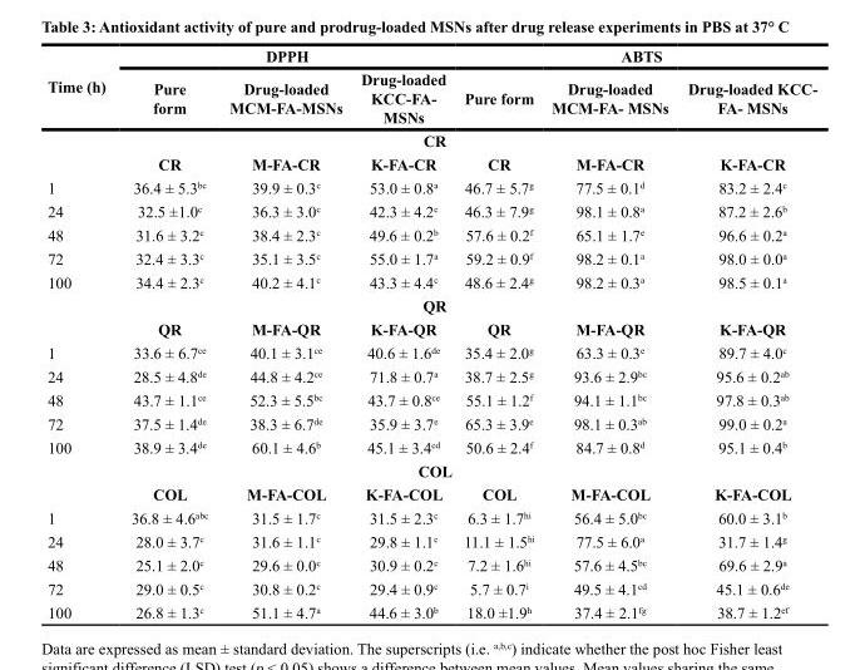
<table><thead><tr><td rowspan="2">Time (h)</td><td colspan="3">DPPH</td><td colspan="3">ABTS</td></tr><tr><td>Pure form</td><td>Drug-loaded MCM-FA-MSNs</td><td>Drug-loaded KCC-FA- MSNs</td><td>Pure form</td><td>Drug-loaded MCM-FA- MSNs</td><td>Drug-loaded KCC- FA- MSNs</td></tr></thead><tbody><tr><td colspan="7">CR</td></tr><tr><td></td><td>CR</td><td>M-FA-CR</td><td>K-FA-CR</td><td>CR</td><td>M-FA-CR</td><td>K-FA-CR</td></tr><tr><td>1</td><td>36.4 ± 5.3<sup>bc</sup></td><td>39.9 ± 0.3<sup>c</sup></td><td>53.0 ± 0.8<sup>a</sup></td><td>46.7 ± 5.7<sup>g</sup></td><td>77.5 ± 0.1<sup>d</sup></td><td>83.2 ± 2.4<sup>c</sup></td></tr><tr><td>24</td><td>32.5 ±1.0<sup>c</sup></td><td>36.3 ± 3.0<sup>c</sup></td><td>42.3 ± 4.2<sup>c</sup></td><td>46.3 ± 7.9<sup>g</sup></td><td>98.1 ± 0.8<sup>a</sup></td><td>87.2 ± 2.6<sup>b</sup></td></tr><tr><td>48</td><td>31.6 ± 3.2<sup>c</sup></td><td>38.4 ± 2.3<sup>c</sup></td><td>49.6 ± 0.2<sup>b</sup></td><td>57.6 ± 0.2<sup>f</sup></td><td>65.1 ± 1.7<sup>e</sup></td><td>96.6 ± 0.2<sup>a</sup></td></tr><tr><td>72</td><td>32.4 ± 3.3<sup>c</sup></td><td>35.1 ± 3.5<sup>c</sup></td><td>55.0 ± 1.7<sup>a</sup></td><td>59.2 ± 0.9<sup>f</sup></td><td>98.2 ± 0.1<sup>a</sup></td><td>98.0 ± 0.0<sup>a</sup></td></tr><tr><td>100</td><td>34.4 ± 2.3<sup>c</sup></td><td>40.2 ± 4.1<sup>c</sup></td><td>43.3 ± 4.4<sup>c</sup></td><td>48.6 ± 2.4<sup>g</sup></td><td>98.2 ± 0.3<sup>a</sup></td><td>98.5 ± 0.1<sup>a</sup></td></tr><tr><td colspan="7">QR</td></tr><tr><td></td><td>QR</td><td>M-FA-QR</td><td>K-FA-QR</td><td>QR</td><td>M-FA-QR</td><td>K-FA-QR</td></tr><tr><td>1</td><td>33.6 ± 6.7<sup>ce</sup></td><td>40.1 ± 3.1<sup>ce</sup></td><td>40.6 ± 1.6<sup>de</sup></td><td>35.4 ± 2.0<sup>g</sup></td><td>63.3 ± 0.3<sup>e</sup></td><td>89.7 ± 4.0<sup>c</sup></td></tr><tr><td>24</td><td>28.5 ± 4.8<sup>de</sup></td><td>44.8 ± 4.2<sup>ce</sup></td><td>71.8 ± 0.7<sup>a</sup></td><td>38.7 ± 2.5<sup>g</sup></td><td>93.6 ± 2.9<sup>bc</sup></td><td>95.6 ± 0.2<sup>ab</sup></td></tr><tr><td>48</td><td>43.7 ± 1.1<sup>ce</sup></td><td>52.3 ± 5.5<sup>bc</sup></td><td>43.7 ± 0.8<sup>ce</sup></td><td>55.1 ± 1.2<sup>f</sup></td><td>94.1 ± 1.1<sup>bc</sup></td><td>97.8 ± 0.3<sup>ab</sup></td></tr><tr><td>72</td><td>37.5 ± 1.4<sup>de</sup></td><td>38.3 ± 6.7<sup>de</sup></td><td>35.9 ± 3.7<sup>e</sup></td><td>65.3 ± 3.9<sup>e</sup></td><td>98.1 ± 0.3<sup>ab</sup></td><td>99.0 ± 0.2<sup>a</sup></td></tr><tr><td>100</td><td>38.9 ± 3.4<sup>de</sup></td><td>60.1 ± 4.6<sup>b</sup></td><td>45.1 ± 3.4<sup>cd</sup></td><td>50.6 ± 2.4<sup>f</sup></td><td>84.7 ± 0.8<sup>d</sup></td><td>95.1 ± 0.4<sup>b</sup></td></tr><tr><td colspan="7">COL</td></tr><tr><td></td><td>COL</td><td>M-FA-COL</td><td>K-FA-COL</td><td>COL</td><td>M-FA-COL</td><td>K-FA-COL</td></tr><tr><td>1</td><td>36.8 ± 4.6<sup>abc</sup></td><td>31.5 ± 1.7<sup>c</sup></td><td>31.5 ± 2.3<sup>c</sup></td><td>6.3 ± 1.7<sup>hi</sup></td><td>56.4 ± 5.0<sup>bc</sup></td><td>60.0 ± 3.1<sup>b</sup></td></tr><tr><td>24</td><td>28.0 ± 3.7<sup>c</sup></td><td>31.6 ± 1.1<sup>c</sup></td><td>29.8 ± 1.1<sup>c</sup></td><td>11.1 ± 1.5<sup>hi</sup></td><td>77.5 ± 6.0<sup>a</sup></td><td>31.7 ± 1.4<sup>g</sup></td></tr><tr><td>48</td><td>25.1 ± 2.0<sup>c</sup></td><td>29.6 ± 0.0<sup>c</sup></td><td>30.9 ± 0.2<sup>c</sup></td><td>7.2 ± 1.6<sup>hi</sup></td><td>57.6 ± 4.5<sup>bc</sup></td><td>69.6 ± 2.9<sup>a</sup></td></tr><tr><td>72</td><td>29.0 ± 0.5<sup>c</sup></td><td>30.8 ± 0.2<sup>c</sup></td><td>29.4 ± 0.9<sup>c</sup></td><td>5.7 ± 0.7<sup>i</sup></td><td>49.5 ± 4.1<sup>cd</sup></td><td>45.1 ± 0.6<sup>de</sup></td></tr><tr><td>100</td><td>26.8 ± 1.3<sup>c</sup></td><td>51.1 ± 4.7<sup>a</sup></td><td>44.6 ± 3.0<sup>b</sup></td><td>18.0 ±1.9<sup>h</sup></td><td>37.4 ± 2.1<sup>fg</sup></td><td>38.7 ± 1.2<sup>ef</sup></td></tr></tbody></table>